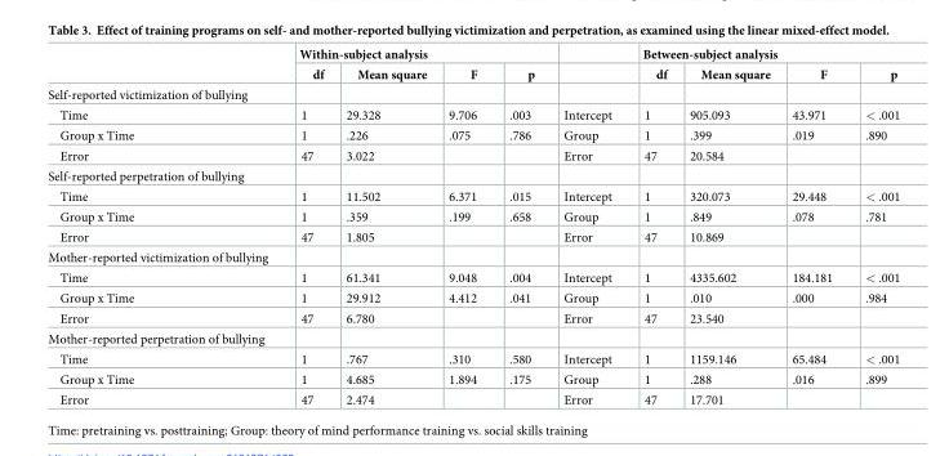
<table><thead><tr><td rowspan="2"></td><td colspan="4">Within-subject analysis</td><td rowspan="2"></td><td colspan="4">Between-subject analysis</td></tr><tr><td>df</td><td>Mean square</td><td>F</td><td>p</td><td>df</td><td>Mean square</td><td>F</td><td>p</td></tr></thead><tbody><tr><td colspan="10">Self-reported victimization of bullying</td></tr><tr><td>Time</td><td>1</td><td>29.328</td><td>9.706</td><td>.003</td><td>Intercept</td><td>1</td><td>905.093</td><td>43.971</td><td>&lt; .001</td></tr><tr><td>Group x Time</td><td>1</td><td>.226</td><td>.075</td><td>.786</td><td>Group</td><td>1</td><td>.399</td><td>.019</td><td>.890</td></tr><tr><td>Error</td><td>47</td><td>3.022</td><td></td><td></td><td>Error</td><td>47</td><td>20.584</td><td></td><td></td></tr><tr><td colspan="10">Self-reported perpetration of bullying</td></tr><tr><td>Time</td><td>1</td><td>11.502</td><td>6.371</td><td>.015</td><td>Intercept</td><td>1</td><td>320.073</td><td>29.448</td><td>&lt; .001</td></tr><tr><td>Group x Time</td><td>1</td><td>.359</td><td>.199</td><td>.658</td><td>Group</td><td>1</td><td>.849</td><td>.078</td><td>.781</td></tr><tr><td>Error</td><td>47</td><td>1.805</td><td></td><td></td><td>Error</td><td>47</td><td>10.869</td><td></td><td></td></tr><tr><td colspan="10">Mother-reported victimization of bullying</td></tr><tr><td>Time</td><td>1</td><td>61.341</td><td>9.048</td><td>.004</td><td>Intercept</td><td>1</td><td>4335.602</td><td>184.181</td><td>&lt; .001</td></tr><tr><td>Group x Time</td><td>1</td><td>29.912</td><td>4.412</td><td>.041</td><td>Group</td><td>1</td><td>.010</td><td>.000</td><td>.984</td></tr><tr><td>Error</td><td>47</td><td>6.780</td><td></td><td></td><td>Error</td><td>47</td><td>23.540</td><td></td><td></td></tr><tr><td colspan="10">Mother-reported perpetration of bullying</td></tr><tr><td>Time</td><td>1</td><td>.767</td><td>.310</td><td>.580</td><td>Intercept</td><td>1</td><td>1159.146</td><td>65.484</td><td>&lt; .001</td></tr><tr><td>Group x Time</td><td>1</td><td>4.685</td><td>1.894</td><td>.175</td><td>Group</td><td>1</td><td>.288</td><td>.016</td><td>.899</td></tr><tr><td>Error</td><td>47</td><td>2.474</td><td></td><td></td><td>Error</td><td>47</td><td>17.701</td><td></td><td></td></tr></tbody></table>